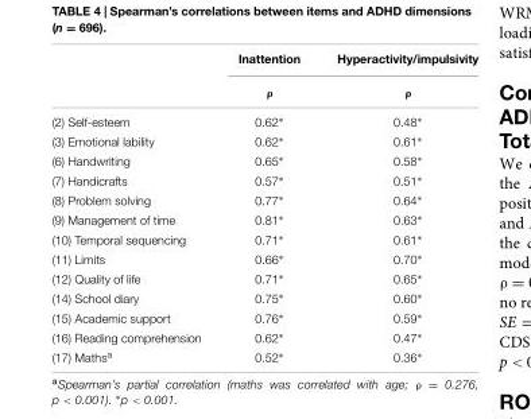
<table><thead><tr><td rowspan="2"></td><td rowspan="2">Inattention ρ</td><td rowspan="2">Hyperactivity/impulsivity ρ</td></tr><tr></tr></thead><tbody><tr><td>(2) Self-esteem</td><td>0.62∗</td><td>0.48∗</td></tr><tr><td>(3) Emotional lability</td><td>0.62∗</td><td>0.61∗</td></tr><tr><td>(6) Handwriting</td><td>0.65∗</td><td>0.58∗</td></tr><tr><td>(7) Handicrafts</td><td>0.57∗</td><td>0.51∗</td></tr><tr><td>(8) Problem solving</td><td>0.77∗</td><td>0.64∗</td></tr><tr><td>(9) Management of time</td><td>0.81∗</td><td>0.63∗</td></tr><tr><td>(10) Temporal sequencing</td><td>0.71∗</td><td>0.61∗</td></tr><tr><td>(11) Limits</td><td>0.66∗</td><td>0.70∗</td></tr><tr><td>(12) Quality of life</td><td>0.71∗</td><td>0.65∗</td></tr><tr><td>(14) School diary</td><td>0.75∗</td><td>0.60∗</td></tr><tr><td>(15) Academic support</td><td>0.76∗</td><td>0.59∗</td></tr><tr><td>(16) Reading comprehension</td><td>0.62∗</td><td>0.47∗</td></tr><tr><td>(17) Maths<sup>a</sup></td><td>0.52∗</td><td>0.36∗</td></tr></tbody></table>